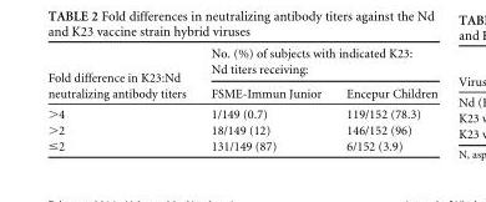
<table><thead><tr><td rowspan="2">Fold difference in K23:Nd neutralizing antibody titers</td><td colspan="2">No. (%) of subjects with indicated K23: Nd titers receiving:</td></tr><tr><td>FSME-Immun Junior</td><td>Encepur Children</td></tr></thead><tbody><tr><td>&gt;4</td><td>1/149 (0.7)</td><td>119/152 (78.3)</td></tr><tr><td>&gt;2</td><td>18/149 (12)</td><td>146/152 (96)</td></tr><tr><td>≤2</td><td>131/149 (87)</td><td>6/152 (3.9)</td></tr></tbody></table>